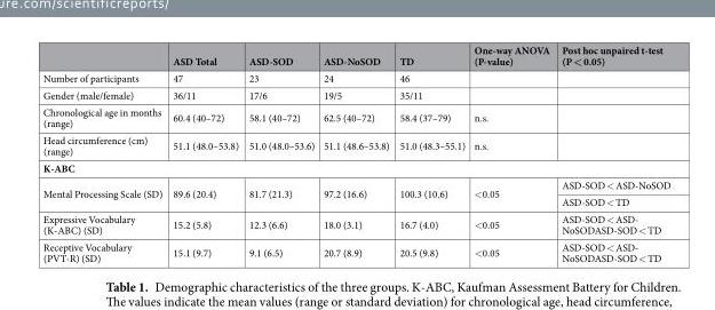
<table><thead><tr><td></td><td>ASD Total</td><td>ASD-SOD</td><td>ASD-NoSOD</td><td>TD</td><td>One-way ANOVA (P-value)</td><td>Post hoc unpaired t-test (P &lt; 0.05)</td></tr></thead><tbody><tr><td>Number of participants</td><td>47</td><td>23</td><td>24</td><td>46</td><td></td><td></td></tr><tr><td>Gender (male/female)</td><td>36/11</td><td>17/6</td><td>19/5</td><td>35/11</td><td></td><td></td></tr><tr><td>Chronological age in months (range)</td><td>60.4 (40–72)</td><td>58.1 (40–72)</td><td>62.5 (40–72)</td><td>58.4 (37–79)</td><td>n.s.</td><td></td></tr><tr><td>Head circumference (cm) (range)</td><td>51.1 (48.0–53.8)</td><td>51.0 (48.0–53.6)</td><td>51.1 (48.6–53.8)</td><td>51.0 (48.3–55.1)</td><td>n.s.</td><td></td></tr><tr><td colspan="7">K-ABC</td></tr><tr><td rowspan="2">Mental Processing Scale (SD)</td><td rowspan="2">89.6 (20.4)</td><td rowspan="2">81.7 (21.3)</td><td rowspan="2">97.2 (16.6)</td><td rowspan="2">100.3 (10.6)</td><td rowspan="2">&lt;0.05</td><td>ASD-SOD &lt; ASD-NoSOD</td></tr><tr><td>ASD-SOD &lt; TD</td></tr><tr><td>Expressive Vocabulary (K-ABC) (SD)</td><td>15.2 (5.8)</td><td>12.3 (6.6)</td><td>18.0 (3.1)</td><td>16.7 (4.0)</td><td>&lt;0.05</td><td>ASD-SOD &lt; ASD- NoSODASD-SOD &lt; TD</td></tr><tr><td>Receptive Vocabulary (PVT-R) (SD)</td><td>15.1 (9.7)</td><td>9.1 (6.5)</td><td>20.7 (8.9)</td><td>20.5 (9.8)</td><td>&lt;0.05</td><td>ASD-SOD &lt; ASD- NoSODASD-SOD &lt; TD</td></tr></tbody></table>